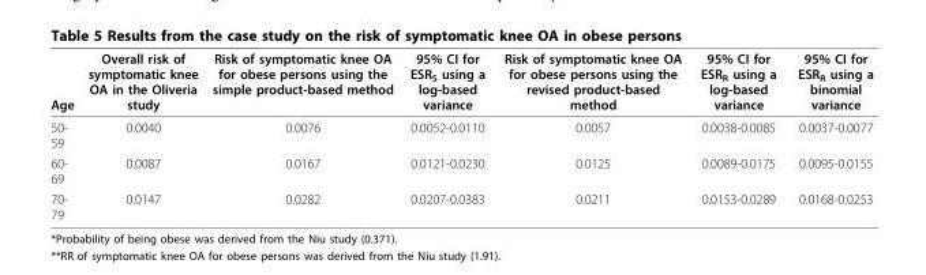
<table><thead><tr><td>Age</td><td>Overall risk of symptomatic knee OA in the Oliveria study</td><td>Risk of symptomatic knee OA for obese persons using the simple product-based method</td><td>95% CI for ESR<sub>S</sub> using a log-based variance</td><td>Risk of symptomatic knee OA for obese persons using the revised product-based method</td><td>95% CI for ESR<sub>R</sub> using a log-based variance</td><td>95% CI for ESR<sub>R</sub> using a binomial variance</td></tr></thead><tbody><tr><td>50- 59</td><td>0.0040</td><td>0.0076</td><td>0.0052-0.0110</td><td>0.0057</td><td>0.0038-0.0085</td><td>0.0037-0.0077</td></tr><tr><td>60- 69</td><td>0.0087</td><td>0.0167</td><td>0.0121-0.0230</td><td>0.0125</td><td>0.0089-0.0175</td><td>0.0095-0.0155</td></tr><tr><td>70- 79</td><td>0.0147</td><td>0.0282</td><td>0.0207-0.0383</td><td>0.0211</td><td>0.0153-0.0289</td><td>0.0168-0.0253</td></tr></tbody></table>